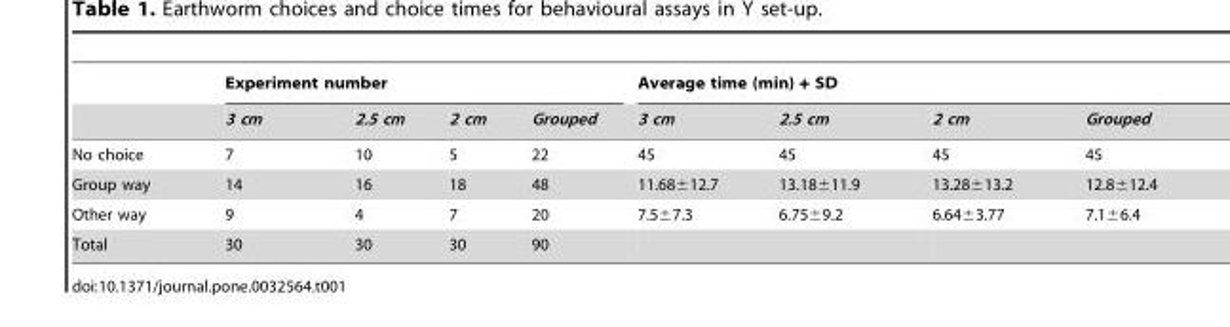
<table><thead><tr><td rowspan="2"></td><td colspan="4">Experiment number</td><td colspan="4">Average time (min) + SD</td></tr><tr><td>3 cm</td><td>2.5 cm</td><td>2 cm</td><td>Grouped</td><td>3 cm</td><td>2.5 cm</td><td>2 cm</td><td>Grouped</td></tr></thead><tbody><tr><td>No choice</td><td>7</td><td>10</td><td>5</td><td>22</td><td>45</td><td>45</td><td>45</td><td>45</td></tr><tr><td>Group way</td><td>14</td><td>16</td><td>18</td><td>48</td><td>11.68±12.7</td><td>13.18±11.9</td><td>13.28±13.2</td><td>12.8±12.4</td></tr><tr><td>Other way</td><td>9</td><td>4</td><td>7</td><td>20</td><td>7.5±7.3</td><td>6.75±9.2</td><td>6.64±3.77</td><td>7.1±6.4</td></tr><tr><td>Total</td><td>30</td><td>30</td><td>30</td><td>90</td><td></td><td></td><td></td><td></td></tr></tbody></table>